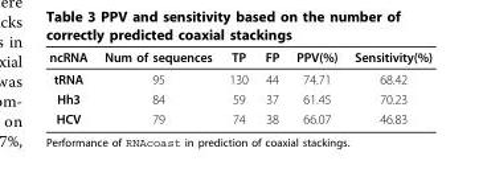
<table><thead><tr><td>ncRNA</td><td>Num of sequences</td><td>TP</td><td>FP</td><td>PPV(%)</td><td>Sensitivity(%)</td></tr></thead><tbody><tr><td>tRNA</td><td>95</td><td>130</td><td>44</td><td>74.71</td><td>68.42</td></tr><tr><td>Hh3</td><td>84</td><td>59</td><td>37</td><td>61.45</td><td>70.23</td></tr><tr><td>HCV</td><td>79</td><td>74</td><td>38</td><td>66.07</td><td>46.83</td></tr></tbody></table>